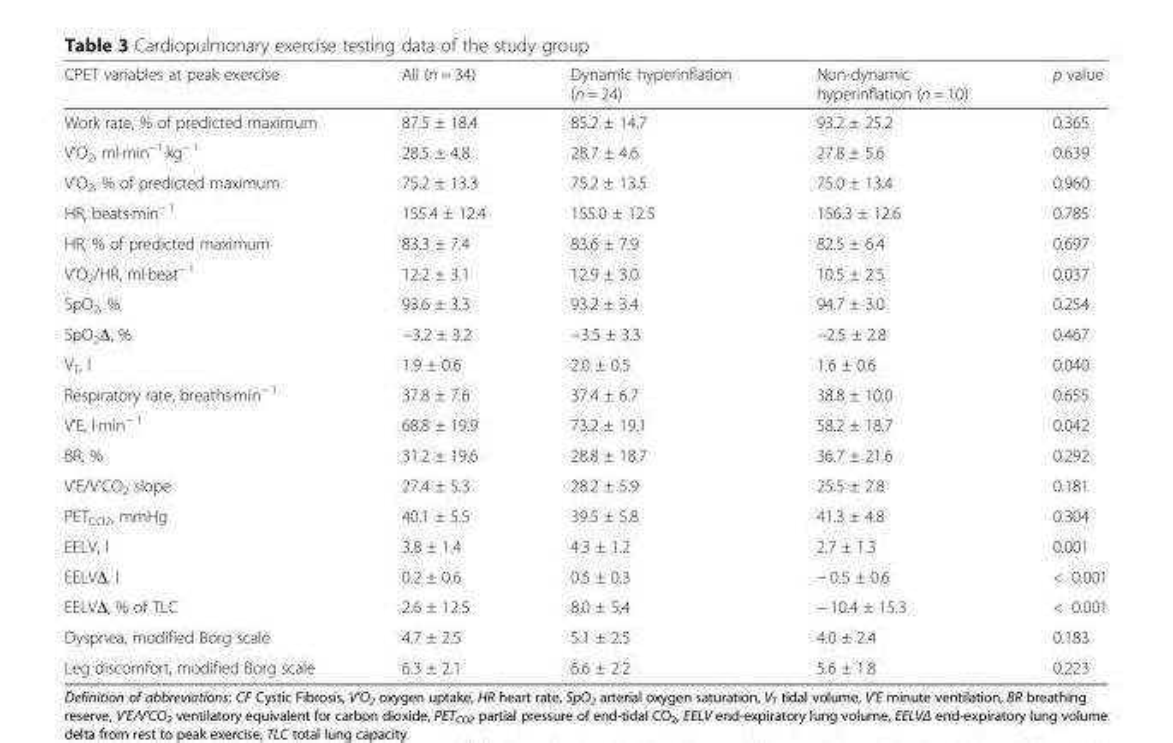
<table><thead><tr><td>CPET variables at peak exercise</td><td>All (n = 34)</td><td>Dynamic hyperinflation (n = 24)</td><td>Non-dynamic hyperinflation (n = 10)</td><td>p value</td></tr></thead><tbody><tr><td>Work rate, % of predicted maximum</td><td>87.5 ± 18.4</td><td>85.2 ± 14.7</td><td>93.2 ± 25.2</td><td>0.365</td></tr><tr><td>V’O<sub>2</sub>, ml∙min<sup>−1</sup>∙kg<sup>− 1</sup></td><td>28.5 ± 4.8</td><td>28.7 ± 4.6</td><td>27.8 ± 5.6</td><td>0.639</td></tr><tr><td>V’O<sub>2</sub>, % of predicted maximum</td><td>75.2 ± 13.3</td><td>75.2 ± 13.5</td><td>75.0 ± 13.4</td><td>0.960</td></tr><tr><td>HR, beats∙min<sup>− 1</sup></td><td>155.4 ± 12.4</td><td>155.0 ± 12.5</td><td>156.3 ± 12.6</td><td>0.785</td></tr><tr><td>HR, % of predicted maximum</td><td>83.3 ± 7.4</td><td>83.6 ± 7.9</td><td>82.5 ± 6.4</td><td>0.697</td></tr><tr><td>V’O<sub>2</sub>/HR, ml∙beat<sup>− 1</sup></td><td>12.2 ± 3.1</td><td>12.9 ± 3.0</td><td>10.5 ± 2.5</td><td>0.037</td></tr><tr><td>SpO<sub>2</sub>, %</td><td>93.6 ± 3.3</td><td>93.2 ± 3.4</td><td>94.7 ± 3.0</td><td>0.254</td></tr><tr><td>SpO<sub>2</sub>Δ, %</td><td>−3.2 ± 3.2</td><td>−3.5 ± 3.3</td><td>−2.5 ± 2.8</td><td>0.467</td></tr><tr><td>V<sub>T</sub>, l</td><td>1.9 ± 0.6</td><td>2.0 ± 0.5</td><td>1.6 ± 0.6</td><td>0.040</td></tr><tr><td>Respiratory rate, breaths∙min<sup>− 1</sup></td><td>37.8 ± 7.6</td><td>37.4 ± 6.7</td><td>38.8 ± 10.0</td><td>0.655</td></tr><tr><td>V’E, l∙min<sup>− 1</sup></td><td>68.8 ± 19.9</td><td>73.2 ± 19.1</td><td>58.2 ± 18.7</td><td>0.042</td></tr><tr><td>BR, %</td><td>31.2 ± 19.6</td><td>28.8 ± 18.7</td><td>36.7 ± 21.6</td><td>0.292</td></tr><tr><td>V’E/V’CO<sub>2</sub> slope</td><td>27.4 ± 5.3</td><td>28.2 ± 5.9</td><td>25.5 ± 2.8</td><td>0.181</td></tr><tr><td>PET<sub>CO2</sub>, mmHg</td><td>40.1 ± 5.5</td><td>39.5 ± 5.8</td><td>41.3 ± 4.8</td><td>0.304</td></tr><tr><td>EELV, l</td><td>3.8 ± 1.4</td><td>4.3 ± 1.2</td><td>2.7 ± 1.3</td><td>0.001</td></tr><tr><td>EELVΔ, l</td><td>0.2 ± 0.6</td><td>0.5 ± 0.3</td><td>− 0.5 ± 0.6</td><td>&lt; 0.001</td></tr><tr><td>EELVΔ, % of TLC</td><td>2.6 ± 12.5</td><td>8.0 ± 5.4</td><td>− 10.4 ± 15.3</td><td>&lt; 0.001</td></tr><tr><td>Dyspnea, modified Borg scale</td><td>4.7 ± 2.5</td><td>5.1 ± 2.5</td><td>4.0 ± 2.4</td><td>0.183</td></tr><tr><td>Leg discomfort, modified Borg scale</td><td>6.3 ± 2.1</td><td>6.6 ± 2.2</td><td>5.6 ± 1.8</td><td>0.223</td></tr></tbody></table>